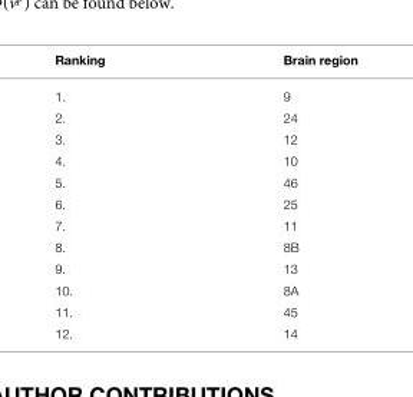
<table><thead><tr><td>Ranking</td><td>Brain region</td></tr></thead><tbody><tr><td>1.</td><td>9</td></tr><tr><td>2.</td><td>24</td></tr><tr><td>3.</td><td>12</td></tr><tr><td>4.</td><td>10</td></tr><tr><td>5.</td><td>46</td></tr><tr><td>6.</td><td>25</td></tr><tr><td>7.</td><td>11</td></tr><tr><td>8.</td><td>8B</td></tr><tr><td>9.</td><td>13</td></tr><tr><td>10.</td><td>8A</td></tr><tr><td>11.</td><td>45</td></tr><tr><td>12.</td><td>14</td></tr></tbody></table>